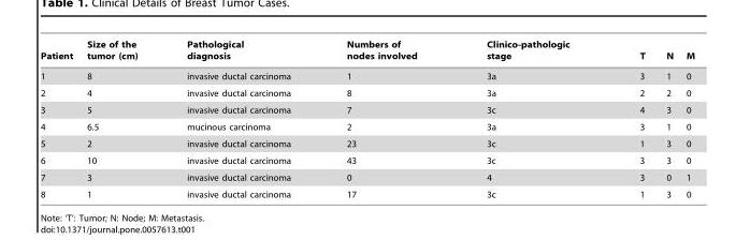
<table><thead><tr><td>Patient</td><td>Size of the tumor (cm)</td><td>Pathological diagnosis</td><td>Numbers of nodes involved</td><td>Clinico-pathologic stage</td><td>T</td><td>N</td><td>M</td></tr></thead><tbody><tr><td>1</td><td>8</td><td>invasive ductal carcinoma</td><td>1</td><td>3a</td><td>3</td><td>1</td><td>0</td></tr><tr><td>2</td><td>4</td><td>invasive ductal carcinoma</td><td>8</td><td>3a</td><td>2</td><td>2</td><td>0</td></tr><tr><td>3</td><td>5</td><td>invasive ductal carcinoma</td><td>7</td><td>3c</td><td>4</td><td>3</td><td>0</td></tr><tr><td>4</td><td>6.5</td><td>mucinous carcinoma</td><td>2</td><td>3a</td><td>3</td><td>1</td><td>0</td></tr><tr><td>5</td><td>2</td><td>invasive ductal carcinoma</td><td>23</td><td>3c</td><td>1</td><td>3</td><td>0</td></tr><tr><td>6</td><td>10</td><td>invasive ductal carcinoma</td><td>43</td><td>3c</td><td>3</td><td>3</td><td>0</td></tr><tr><td>7</td><td>3</td><td>invasive ductal carcinoma</td><td>0</td><td>4</td><td>3</td><td>0</td><td>1</td></tr><tr><td>8</td><td>1</td><td>invasive ductal carcinoma</td><td>17</td><td>3c</td><td>1</td><td>3</td><td>0</td></tr></tbody></table>